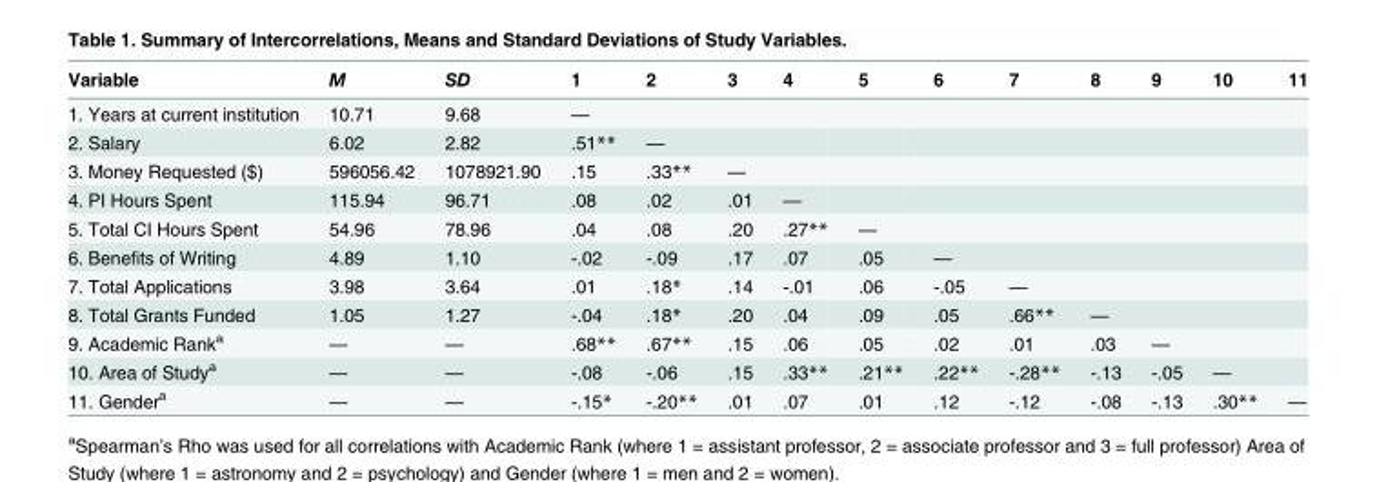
<table><thead><tr><td>Variable</td><td>M</td><td>SD</td><td>1</td><td>2</td><td>3</td><td>4</td><td>5</td><td>6</td><td>7</td><td>8</td><td>9</td><td>10</td><td>11</td></tr></thead><tbody><tr><td>1. Years at current institution</td><td>10.71</td><td>9.68</td><td>—</td><td></td><td></td><td></td><td></td><td></td><td></td><td></td><td></td><td></td><td></td></tr><tr><td>2. Salary</td><td>6.02</td><td>2.82</td><td>.51**</td><td>—</td><td></td><td></td><td></td><td></td><td></td><td></td><td></td><td></td><td></td></tr><tr><td>3. Money Requested ($)</td><td>596056.42</td><td>1078921.90</td><td>.15</td><td>.33**</td><td>—</td><td></td><td></td><td></td><td></td><td></td><td></td><td></td><td></td></tr><tr><td>4. PI Hours Spent</td><td>115.94</td><td>96.71</td><td>.08</td><td>.02</td><td>.01</td><td>—</td><td></td><td></td><td></td><td></td><td></td><td></td><td></td></tr><tr><td>5. Total CI Hours Spent</td><td>54.96</td><td>78.96</td><td>.04</td><td>.08</td><td>.20</td><td>.27**</td><td>—</td><td></td><td></td><td></td><td></td><td></td><td></td></tr><tr><td>6. Benefits of Writing</td><td>4.89</td><td>1.10</td><td>-.02</td><td>-.09</td><td>.17</td><td>.07</td><td>.05</td><td>—</td><td></td><td></td><td></td><td></td><td></td></tr><tr><td>7. Total Applications</td><td>3.98</td><td>3.64</td><td>.01</td><td>.18*</td><td>.14</td><td>-.01</td><td>.06</td><td>-.05</td><td>—</td><td></td><td></td><td></td><td></td></tr><tr><td>8. Total Grants Funded</td><td>1.05</td><td>1.27</td><td>-.04</td><td>.18*</td><td>.20</td><td>.04</td><td>.09</td><td>.05</td><td>.66**</td><td>—</td><td></td><td></td><td></td></tr><tr><td>9. Academic Rank<sup>a</sup></td><td>—</td><td>—</td><td>.68**</td><td>.67**</td><td>.15</td><td>.06</td><td>.05</td><td>.02</td><td>.01</td><td>.03</td><td>—</td><td></td><td></td></tr><tr><td>10. Area of Study<sup>a</sup></td><td>—</td><td>—</td><td>-.08</td><td>-.06</td><td>.15</td><td>.33**</td><td>.21**</td><td>.22**</td><td>-.28**</td><td>-.13</td><td>-.05</td><td>—</td><td></td></tr><tr><td>11. Gender<sup>a</sup></td><td>—</td><td>—</td><td>-.15*</td><td>-.20**</td><td>.01</td><td>.07</td><td>.01</td><td>.12</td><td>-.12</td><td>-.08</td><td>-.13</td><td>.30**</td><td>—</td></tr></tbody></table>